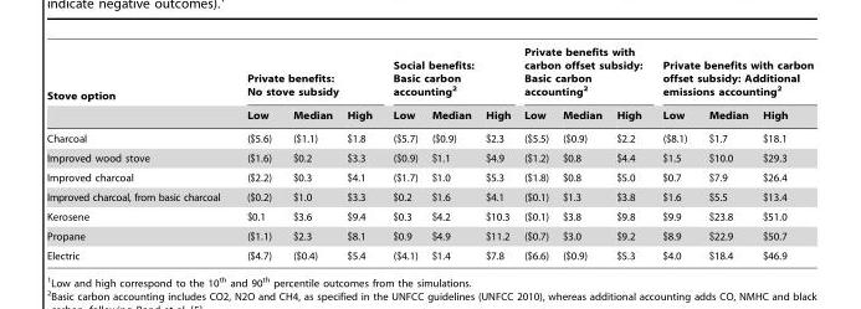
<table><thead><tr><td rowspan="2">Stove option</td><td colspan="3">Private benefits: No stove subsidy</td><td colspan="3">Social benefits: Basic carbon accounting<sup>2</sup></td><td colspan="3">Private benefits with carbon offset subsidy: Basic carbon accounting<sup>2</sup></td><td colspan="3">Private benefits with carbon offset subsidy: Additional emissions accounting<sup>2</sup></td></tr><tr><td>Low</td><td>Median</td><td>High</td><td>Low</td><td>Median</td><td>High</td><td>Low</td><td>Median</td><td>High</td><td>Low</td><td>Median</td><td>High</td></tr></thead><tbody><tr><td>Charcoal</td><td>($5.6)</td><td>($1.1)</td><td>$1.8</td><td>($5.7)</td><td>($0.9)</td><td>$2.3</td><td>($5.5)</td><td>($0.9)</td><td>$2.2</td><td>($8.1)</td><td>$1.7</td><td>$18.1</td></tr><tr><td>Improved wood stove</td><td>($1.6)</td><td>$0.2</td><td>$3.3</td><td>($0.9)</td><td>$1.1</td><td>$4.9</td><td>($1.2)</td><td>$0.8</td><td>$4.4</td><td>$1.5</td><td>$10.0</td><td>$29.3</td></tr><tr><td>Improved charcoal</td><td>($2.2)</td><td>$0.3</td><td>$4.1</td><td>($1.7)</td><td>$1.0</td><td>$5.3</td><td>($1.8)</td><td>$0.8</td><td>$5.0</td><td>$0.7</td><td>$7.9</td><td>$26.4</td></tr><tr><td>Improved charcoal, from basic charcoal</td><td>($0.2)</td><td>$1.0</td><td>$3.3</td><td>$0.2</td><td>$1.6</td><td>$4.1</td><td>($0.1)</td><td>$1.3</td><td>$3.8</td><td>$1.6</td><td>$5.5</td><td>$13.4</td></tr><tr><td>Kerosene</td><td>$0.1</td><td>$3.6</td><td>$9.4</td><td>$0.3</td><td>$4.2</td><td>$10.3</td><td>($0.1)</td><td>$3.8</td><td>$9.8</td><td>$9.9</td><td>$23.8</td><td>$51.0</td></tr><tr><td>Propane</td><td>($1.1)</td><td>$2.3</td><td>$8.1</td><td>$0.9</td><td>$4.9</td><td>$11.2</td><td>($0.7)</td><td>$3.0</td><td>$9.2</td><td>$8.9</td><td>$22.9</td><td>$50.7</td></tr><tr><td>Electric</td><td>($4.7)</td><td>($0.4)</td><td>$5.4</td><td>($4.1)</td><td>$1.4</td><td>$7.8</td><td>($6.6)</td><td>($0.9)</td><td>$5.3</td><td>$4.0</td><td>$18.4</td><td>$46.9</td></tr></tbody></table>